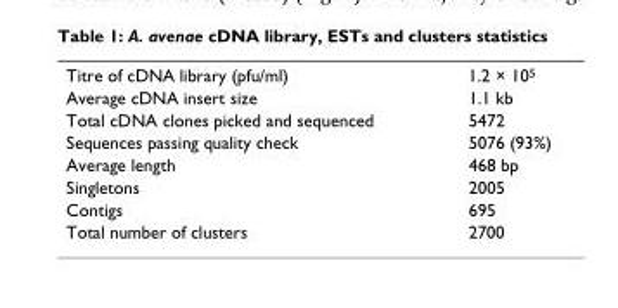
<table><tbody><tr><td>Titre of cDNA library (pfu/ml)</td><td>1.2 × 10<sup>5</sup></td></tr><tr><td>Average cDNA insert size</td><td>1.1 kb</td></tr><tr><td>Total cDNA clones picked and sequenced</td><td>5472</td></tr><tr><td>Sequences passing quality check</td><td>5076 (93%)</td></tr><tr><td>Average length</td><td>468 bp</td></tr><tr><td>Singletons</td><td>2005</td></tr><tr><td>Contigs</td><td>695</td></tr><tr><td>Total number of clusters</td><td>2700</td></tr></tbody></table>